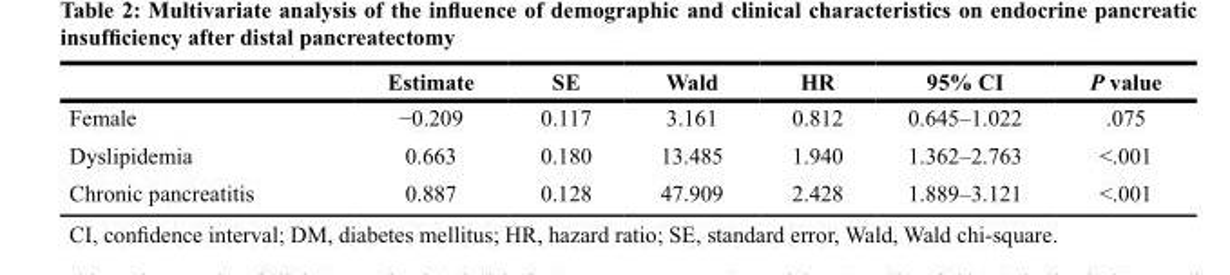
<table><thead><tr><td></td><td>Estimate</td><td>SE</td><td>Wald</td><td>HR</td><td>95% CI</td><td>P value</td></tr></thead><tbody><tr><td>Female</td><td>−0.209</td><td>0.117</td><td>3.161</td><td>0.812</td><td>0.645–1.022</td><td>.075</td></tr><tr><td>Dyslipidemia</td><td>0.663</td><td>0.180</td><td>13.485</td><td>1.940</td><td>1.362–2.763</td><td>&lt;.001</td></tr><tr><td>Chronic pancreatitis</td><td>0.887</td><td>0.128</td><td>47.909</td><td>2.428</td><td>1.889–3.121</td><td>&lt;.001</td></tr></tbody></table>